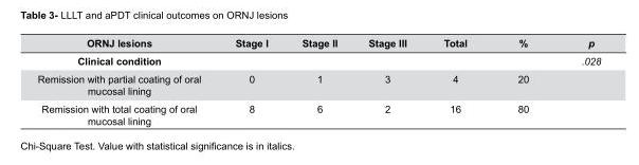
<table><thead><tr><td>ORNJ lesions</td><td>Stage I</td><td>Stage II</td><td>Stage III</td><td>Total</td><td>%</td><td>p</td></tr></thead><tbody><tr><td>Clinical condition</td><td></td><td></td><td></td><td></td><td></td><td>.028</td></tr><tr><td>Remission with partial coating of oral mucosal lining</td><td>0</td><td>1</td><td>3</td><td>4</td><td>20</td><td></td></tr><tr><td>Remission with total coating of oral mucosal lining</td><td>8</td><td>6</td><td>2</td><td>16</td><td>80</td><td></td></tr></tbody></table>